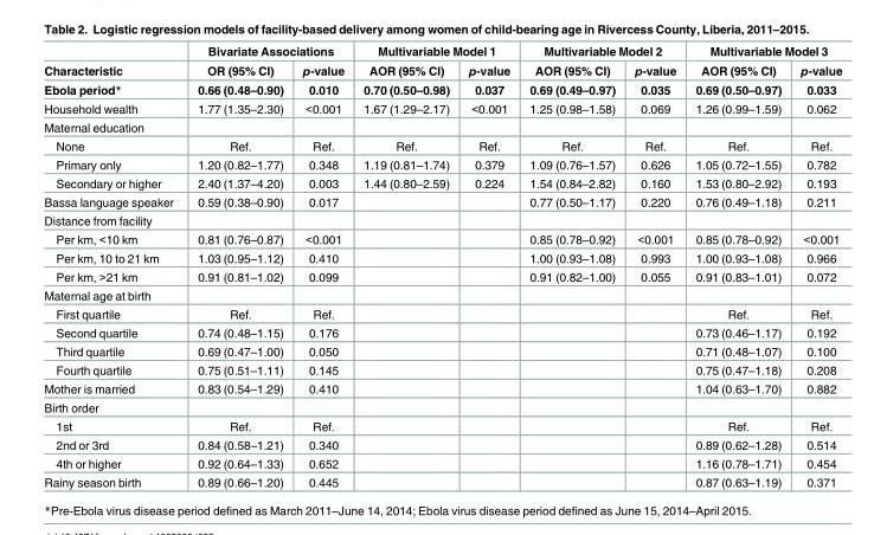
<table><thead><tr><td rowspan="2">Characteristic</td><td colspan="2">Bivariate Associations</td><td colspan="2">Multivariable Model 1</td><td colspan="2">Multivariable Model 2</td><td colspan="2">Multivariable Model 3</td></tr><tr><td>OR (95% CI)</td><td>p-value</td><td>AOR (95% CI)</td><td>p-value</td><td>AOR (95% CI)</td><td>p-value</td><td>AOR (95% CI)</td><td>p-value</td></tr></thead><tbody><tr><td>Ebola period*</td><td>0.66 (0.48–0.90)</td><td>0.010</td><td>0.70 (0.50–0.98)</td><td>0.037</td><td>0.69 (0.49–0.97)</td><td>0.035</td><td>0.69 (0.50–0.97)</td><td>0.033</td></tr><tr><td>Household wealth</td><td>1.77 (1.35–2.30)</td><td>&lt;0.001</td><td>1.67 (1.29–2.17)</td><td>&lt;0.001</td><td>1.25 (0.98–1.58)</td><td>0.069</td><td>1.26 (0.99–1.59)</td><td>0.062</td></tr><tr><td colspan="9">Maternal education</td></tr><tr><td>None</td><td>Ref.</td><td>Ref.</td><td>Ref.</td><td>Ref.</td><td>Ref.</td><td>Ref.</td><td>Ref.</td><td>Ref.</td></tr><tr><td>Primary only</td><td>1.20 (0.82–1.77)</td><td>0.348</td><td>1.19 (0.81–1.74)</td><td>0.379</td><td>1.09 (0.76–1.57)</td><td>0.626</td><td>1.05 (0.72–1.55)</td><td>0.782</td></tr><tr><td>Secondary or higher</td><td>2.40 (1.37–4.20)</td><td>0.003</td><td>1.44 (0.80–2.59)</td><td>0.224</td><td>1.54 (0.84–2.82)</td><td>0.160</td><td>1.53 (0.80–2.92)</td><td>0.193</td></tr><tr><td>Bassa language speaker</td><td>0.59 (0.38–0.90)</td><td>0.017</td><td></td><td></td><td>0.77 (0.50–1.17)</td><td>0.220</td><td>0.76 (0.49–1.18)</td><td>0.211</td></tr><tr><td colspan="9">Distance from facility</td></tr><tr><td>Per km, &lt;10 km</td><td>0.81 (0.76–0.87)</td><td>&lt;0.001</td><td></td><td></td><td>0.85 (0.78–0.92)</td><td>&lt;0.001</td><td>0.85 (0.78–0.92)</td><td>&lt;0.001</td></tr><tr><td>Per km, 10 to 21 km</td><td>1.03 (0.95–1.12)</td><td>0.410</td><td></td><td></td><td>1.00 (0.93–1.08)</td><td>0.993</td><td>1.00 (0.93–1.08)</td><td>0.966</td></tr><tr><td>Per km, &gt;21 km</td><td>0.91 (0.81–1.02)</td><td>0.099</td><td></td><td></td><td>0.91 (0.82–1.00)</td><td>0.055</td><td>0.91 (0.83–1.01)</td><td>0.072</td></tr><tr><td colspan="9">Maternal age at birth</td></tr><tr><td>First quartile</td><td>Ref.</td><td>Ref.</td><td></td><td></td><td></td><td></td><td>Ref.</td><td>Ref.</td></tr><tr><td>Second quartile</td><td>0.74 (0.48–1.15)</td><td>0.176</td><td></td><td></td><td></td><td></td><td>0.73 (0.46–1.17)</td><td>0.192</td></tr><tr><td>Third quartile</td><td>0.69 (0.47–1.00)</td><td>0.050</td><td></td><td></td><td></td><td></td><td>0.71 (0.48–1.07)</td><td>0.100</td></tr><tr><td>Fourth quartile</td><td>0.75 (0.51–1.11)</td><td>0.145</td><td></td><td></td><td></td><td></td><td>0.75 (0.47–1.18)</td><td>0.208</td></tr><tr><td>Mother is married</td><td>0.83 (0.54–1.29)</td><td>0.410</td><td></td><td></td><td></td><td></td><td>1.04 (0.63–1.70)</td><td>0.882</td></tr><tr><td colspan="9">Birth order</td></tr><tr><td>1st</td><td>Ref.</td><td>Ref.</td><td></td><td></td><td></td><td></td><td>Ref.</td><td>Ref.</td></tr><tr><td>2nd or 3rd</td><td>0.84 (0.58–1.21)</td><td>0.340</td><td></td><td></td><td></td><td></td><td>0.89 (0.62–1.28)</td><td>0.514</td></tr><tr><td>4th or higher</td><td>0.92 (0.64–1.33)</td><td>0.652</td><td></td><td></td><td></td><td></td><td>1.16 (0.78–1.71)</td><td>0.454</td></tr><tr><td>Rainy season birth</td><td>0.89 (0.66–1.20)</td><td>0.445</td><td></td><td></td><td></td><td></td><td>0.87 (0.63–1.19)</td><td>0.371</td></tr></tbody></table>